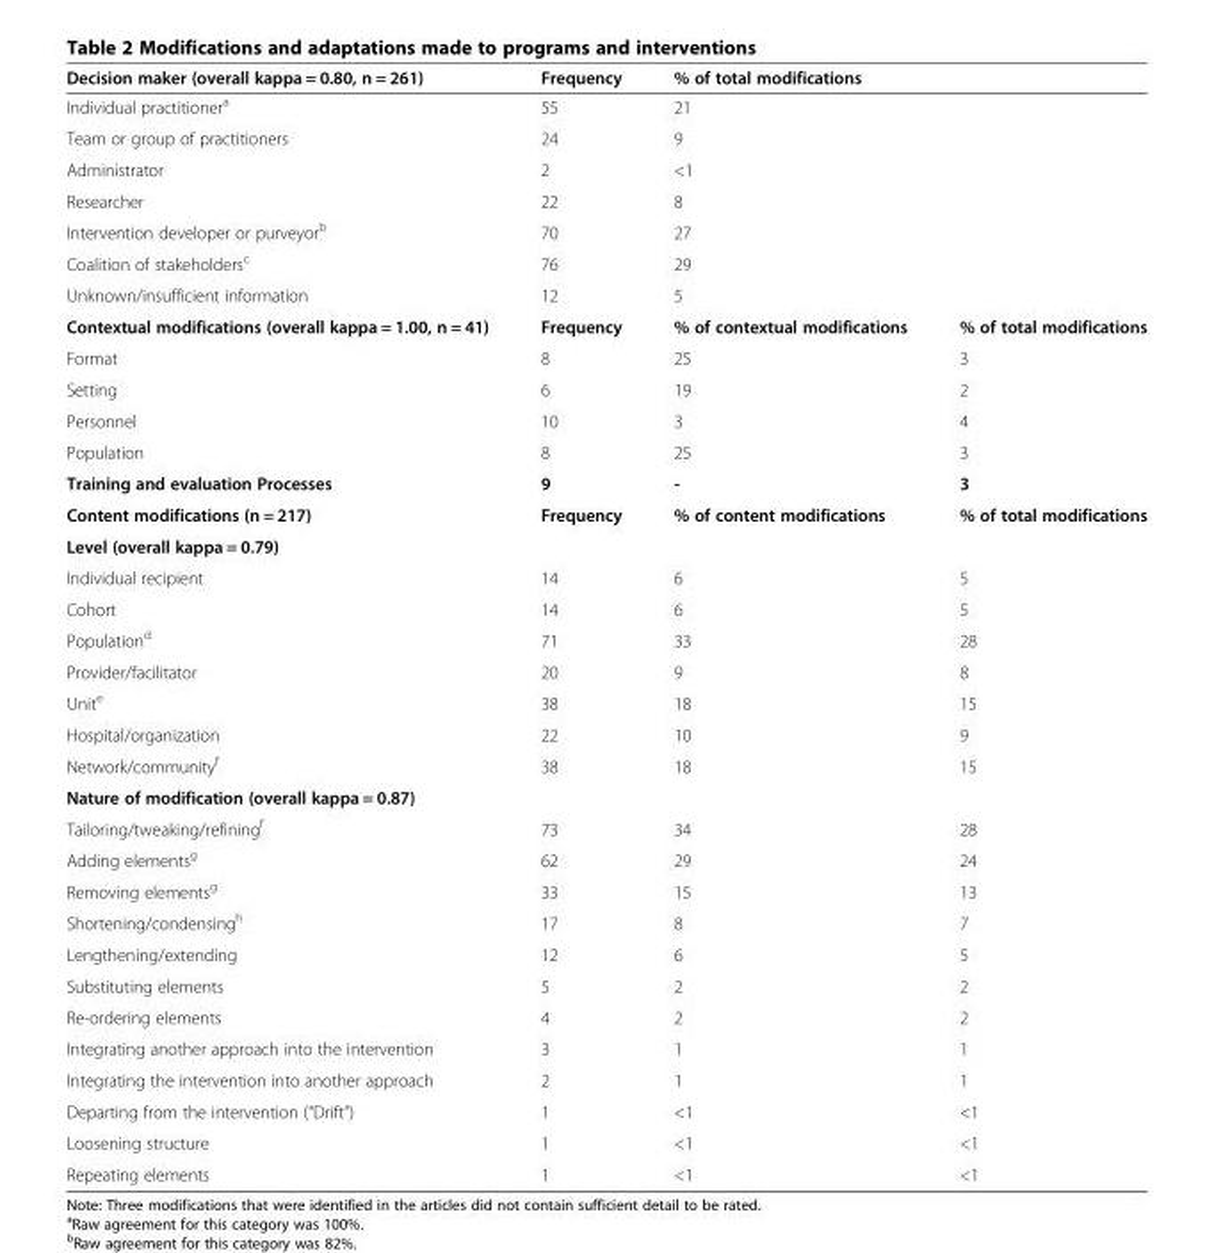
<table><thead><tr><td>Decision maker (overall kappa = 0.80, n = 261)</td><td>Frequency</td><td>% of total modifications</td><td></td></tr></thead><tbody><tr><td>Individual practitioner<sup>a</sup></td><td>55</td><td>21</td><td></td></tr><tr><td>Team or group of practitioners</td><td>24</td><td>9</td><td></td></tr><tr><td>Administrator</td><td>2</td><td>&lt;1</td><td></td></tr><tr><td>Researcher</td><td>22</td><td>8</td><td></td></tr><tr><td>Intervention developer or purveyor<sup>b</sup></td><td>70</td><td>27</td><td></td></tr><tr><td>Coalition of stakeholders<sup>c</sup></td><td>76</td><td>29</td><td></td></tr><tr><td>Unknown/insufficient information</td><td>12</td><td>5</td><td></td></tr><tr><td>Contextual modifications (overall kappa = 1.00, n = 41)</td><td>Frequency</td><td>% of contextual modifications</td><td>% of total modifications</td></tr><tr><td>Format</td><td>8</td><td>25</td><td>3</td></tr><tr><td>Setting</td><td>6</td><td>19</td><td>2</td></tr><tr><td>Personnel</td><td>10</td><td>3</td><td>4</td></tr><tr><td>Population</td><td>8</td><td>25</td><td>3</td></tr><tr><td>Training and evaluation Processes</td><td>9</td><td>-</td><td>3</td></tr><tr><td>Content modifications (n = 217)</td><td>Frequency</td><td>% of content modifications</td><td>% of total modifications</td></tr><tr><td colspan="4">Level (overall kappa = 0.79)</td></tr><tr><td>Individual recipient</td><td>14</td><td>6</td><td>5</td></tr><tr><td>Cohort</td><td>14</td><td>6</td><td>5</td></tr><tr><td>Population<sup>d</sup></td><td>71</td><td>33</td><td>28</td></tr><tr><td>Provider/facilitator</td><td>20</td><td>9</td><td>8</td></tr><tr><td>Unit<sup>e</sup></td><td>38</td><td>18</td><td>15</td></tr><tr><td>Hospital/organization</td><td>22</td><td>10</td><td>9</td></tr><tr><td>Network/community<sup>f</sup></td><td>38</td><td>18</td><td>15</td></tr><tr><td colspan="4">Nature of modification (overall kappa = 0.87)</td></tr><tr><td>Tailoring/tweaking/refining<sup>f</sup></td><td>73</td><td>34</td><td>28</td></tr><tr><td>Adding elements<sup>g</sup></td><td>62</td><td>29</td><td>24</td></tr><tr><td>Removing elements<sup>g</sup></td><td>33</td><td>15</td><td>13</td></tr><tr><td>Shortening/condensing<sup>h</sup></td><td>17</td><td>8</td><td>7</td></tr><tr><td>Lengthening/extending</td><td>12</td><td>6</td><td>5</td></tr><tr><td>Substituting elements</td><td>5</td><td>2</td><td>2</td></tr><tr><td>Re-ordering elements</td><td>4</td><td>2</td><td>2</td></tr><tr><td>Integrating another approach into the intervention</td><td>3</td><td>1</td><td>1</td></tr><tr><td>Integrating the intervention into another approach</td><td>2</td><td>1</td><td>1</td></tr><tr><td>Departing from the intervention (“Drift”)</td><td>1</td><td>&lt;1</td><td>&lt;1</td></tr><tr><td>Loosening structure</td><td>1</td><td>&lt;1</td><td>&lt;1</td></tr><tr><td>Repeating elements</td><td>1</td><td>&lt;1</td><td>&lt;1</td></tr></tbody></table>